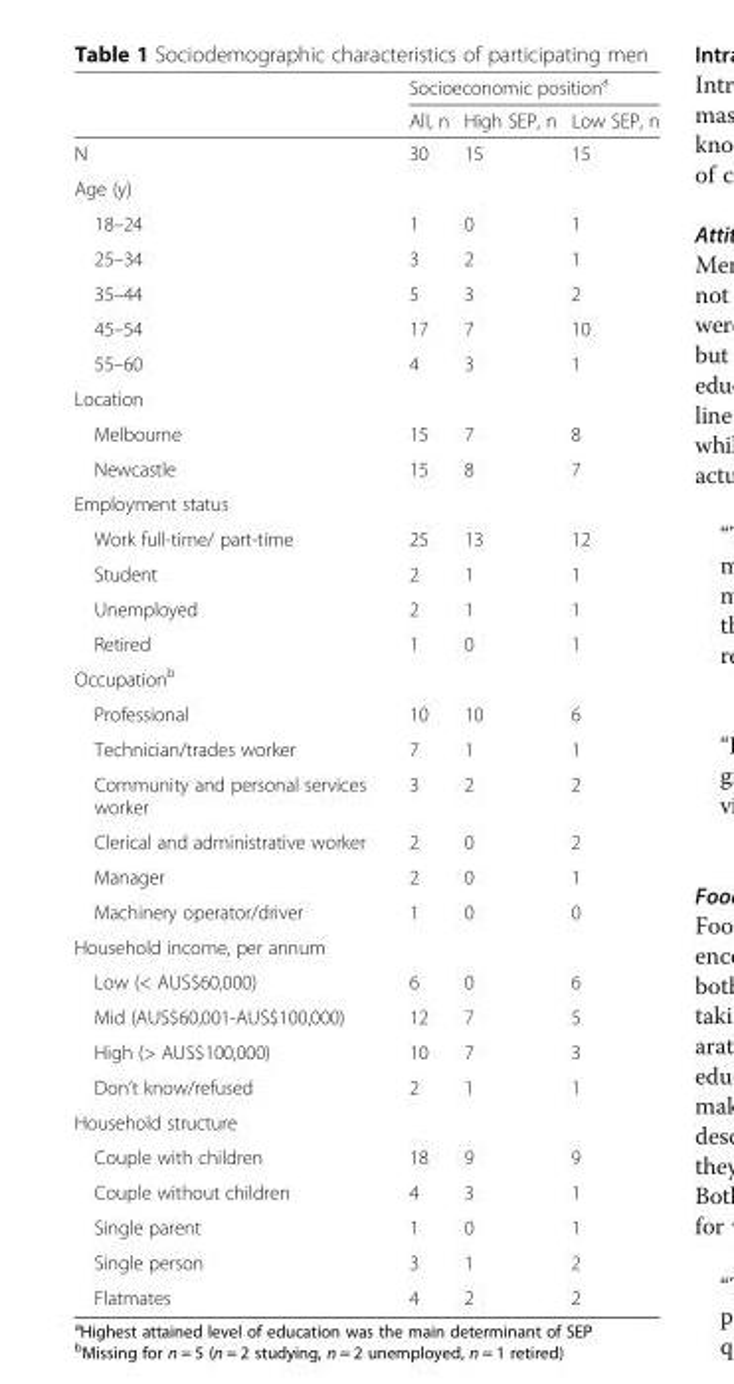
<table><thead><tr><td rowspan="2"></td><td colspan="3">Socioeconomic position<sup>a</sup></td></tr><tr><td>All, n</td><td>High SEP, n</td><td>Low SEP, n</td></tr></thead><tbody><tr><td>N</td><td>30</td><td>15</td><td>15</td></tr><tr><td colspan="4">Age (y)</td></tr><tr><td>18–24</td><td>1</td><td>0</td><td>1</td></tr><tr><td>25–34</td><td>3</td><td>2</td><td>1</td></tr><tr><td>35–44</td><td>5</td><td>3</td><td>2</td></tr><tr><td>45–54</td><td>17</td><td>7</td><td>10</td></tr><tr><td>55–60</td><td>4</td><td>3</td><td>1</td></tr><tr><td colspan="4">Location</td></tr><tr><td>Melbourne</td><td>15</td><td>7</td><td>8</td></tr><tr><td>Newcastle</td><td>15</td><td>8</td><td>7</td></tr><tr><td colspan="4">Employment status</td></tr><tr><td>Work full-time/ part-time</td><td>25</td><td>13</td><td>12</td></tr><tr><td>Student</td><td>2</td><td>1</td><td>1</td></tr><tr><td>Unemployed</td><td>2</td><td>1</td><td>1</td></tr><tr><td>Retired</td><td>1</td><td>0</td><td>1</td></tr><tr><td colspan="4">Occupation<sup>b</sup></td></tr><tr><td>Professional</td><td>10</td><td>10</td><td>6</td></tr><tr><td>Technician/trades worker</td><td>7</td><td>1</td><td>1</td></tr><tr><td>Community and personal services worker</td><td>3</td><td>2</td><td>2</td></tr><tr><td>Clerical and administrative worker</td><td>2</td><td>0</td><td>2</td></tr><tr><td>Manager</td><td>2</td><td>0</td><td>1</td></tr><tr><td>Machinery operator/driver</td><td>1</td><td>0</td><td>0</td></tr><tr><td colspan="4">Household income, per annum</td></tr><tr><td>Low (&lt; AUS$60,000)</td><td>6</td><td>0</td><td>6</td></tr><tr><td>Mid (AUS$60,001-AUS$100,000)</td><td>12</td><td>7</td><td>5</td></tr><tr><td>High (&gt; AUS$100,000)</td><td>10</td><td>7</td><td>3</td></tr><tr><td>Don’t know/refused</td><td>2</td><td>1</td><td>1</td></tr><tr><td colspan="4">Household structure</td></tr><tr><td>Couple with children</td><td>18</td><td>9</td><td>9</td></tr><tr><td>Couple without children</td><td>4</td><td>3</td><td>1</td></tr><tr><td>Single parent</td><td>1</td><td>0</td><td>1</td></tr><tr><td>Single person</td><td>3</td><td>1</td><td>2</td></tr><tr><td>Flatmates</td><td>4</td><td>2</td><td>2</td></tr></tbody></table>